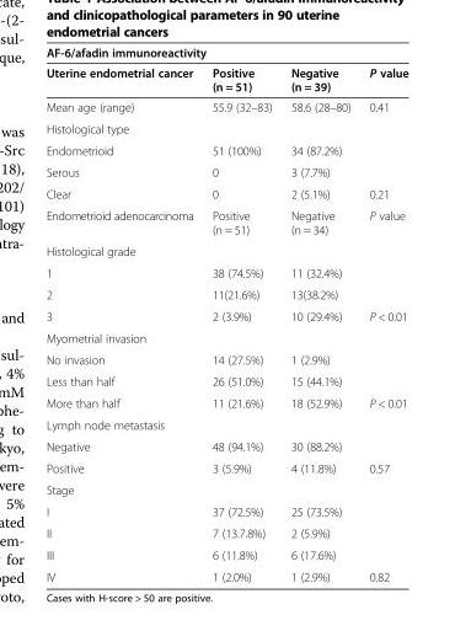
<table><thead><tr><td colspan="4">AF-6/afadin immunoreactivity</td></tr><tr><td>Uterine endometrial cancer</td><td>Positive (n = 51)</td><td>Negative (n = 39)</td><td>P value</td></tr></thead><tbody><tr><td>Mean age (range)</td><td>55.9 (32–83)</td><td>58.6 (28–80)</td><td>0.41</td></tr><tr><td colspan="4">Histological type</td></tr><tr><td>Endometrioid</td><td>51 (100%)</td><td colspan="2">34 (87.2%)</td></tr><tr><td>Serous</td><td>0</td><td colspan="2">3 (7.7%)</td></tr><tr><td>Clear</td><td>0</td><td>2 (5.1%)</td><td>0.21</td></tr><tr><td>Endometrioid adenocarcinoma</td><td>Positive (n = 51)</td><td>Negative (n = 34)</td><td>P value</td></tr><tr><td colspan="4">Histological grade</td></tr><tr><td>1</td><td>38 (74.5%)</td><td colspan="2">11 (32.4%)</td></tr><tr><td>2</td><td>11(21.6%)</td><td colspan="2">13(38.2%)</td></tr><tr><td>3</td><td>2 (3.9%)</td><td>10 (29.4%)</td><td>P &lt; 0.01</td></tr><tr><td colspan="4">Myometrial invasion</td></tr><tr><td>No invasion</td><td>14 (27.5%)</td><td colspan="2">1 (2.9%)</td></tr><tr><td>Less than half</td><td>26 (51.0%)</td><td colspan="2">15 (44.1%)</td></tr><tr><td>More than half</td><td>11 (21.6%)</td><td>18 (52.9%)</td><td>P &lt; 0.01</td></tr><tr><td colspan="4">Lymph node metastasis</td></tr><tr><td>Negative</td><td>48 (94.1%)</td><td colspan="2">30 (88.2%)</td></tr><tr><td>Positive</td><td>3 (5.9%)</td><td>4 (11.8%)</td><td>0.57</td></tr><tr><td colspan="4">Stage</td></tr><tr><td>I</td><td>37 (72.5%)</td><td colspan="2">25 (73.5%)</td></tr><tr><td>II</td><td>7 (13.7.8%)</td><td colspan="2">2 (5.9%)</td></tr><tr><td>III</td><td>6 (11.8%)</td><td colspan="2">6 (17.6%)</td></tr><tr><td>IV</td><td>1 (2.0%)</td><td>1 (2.9%)</td><td>0.82</td></tr></tbody></table>